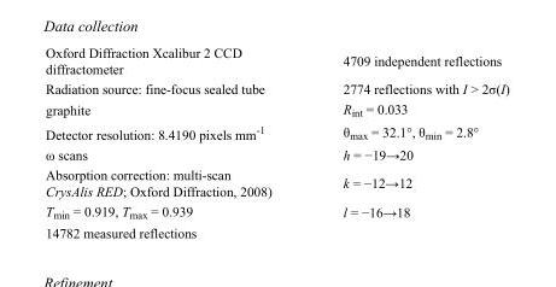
<table><tbody><tr><td>Oxford Diffraction Xcalibur 2 CCD diffractometer</td><td>4709 independent reflections</td></tr><tr><td>Radiation source: fine-focus sealed tube</td><td>2774 reflections with I &gt; 2σ(I)</td></tr><tr><td>graphite</td><td>R<sub>int</sub> = 0.033</td></tr><tr><td>Detector resolution: 8.4190 pixels mm<sup>-1</sup></td><td>θ<sub>max</sub> = 32.1°, θ<sub>min</sub> = 2.8°</td></tr><tr><td>ω scans</td><td>h = −19→20</td></tr><tr><td>Absorption correction: multi-scan CrysAlis RED; Oxford Diffraction, 2008)</td><td>k = −12→12</td></tr><tr><td>T<sub>min</sub> = 0.919, T<sub>max</sub> = 0.939</td><td>l = −16→18</td></tr><tr><td>14782 measured reflections</td><td></td></tr></tbody></table>